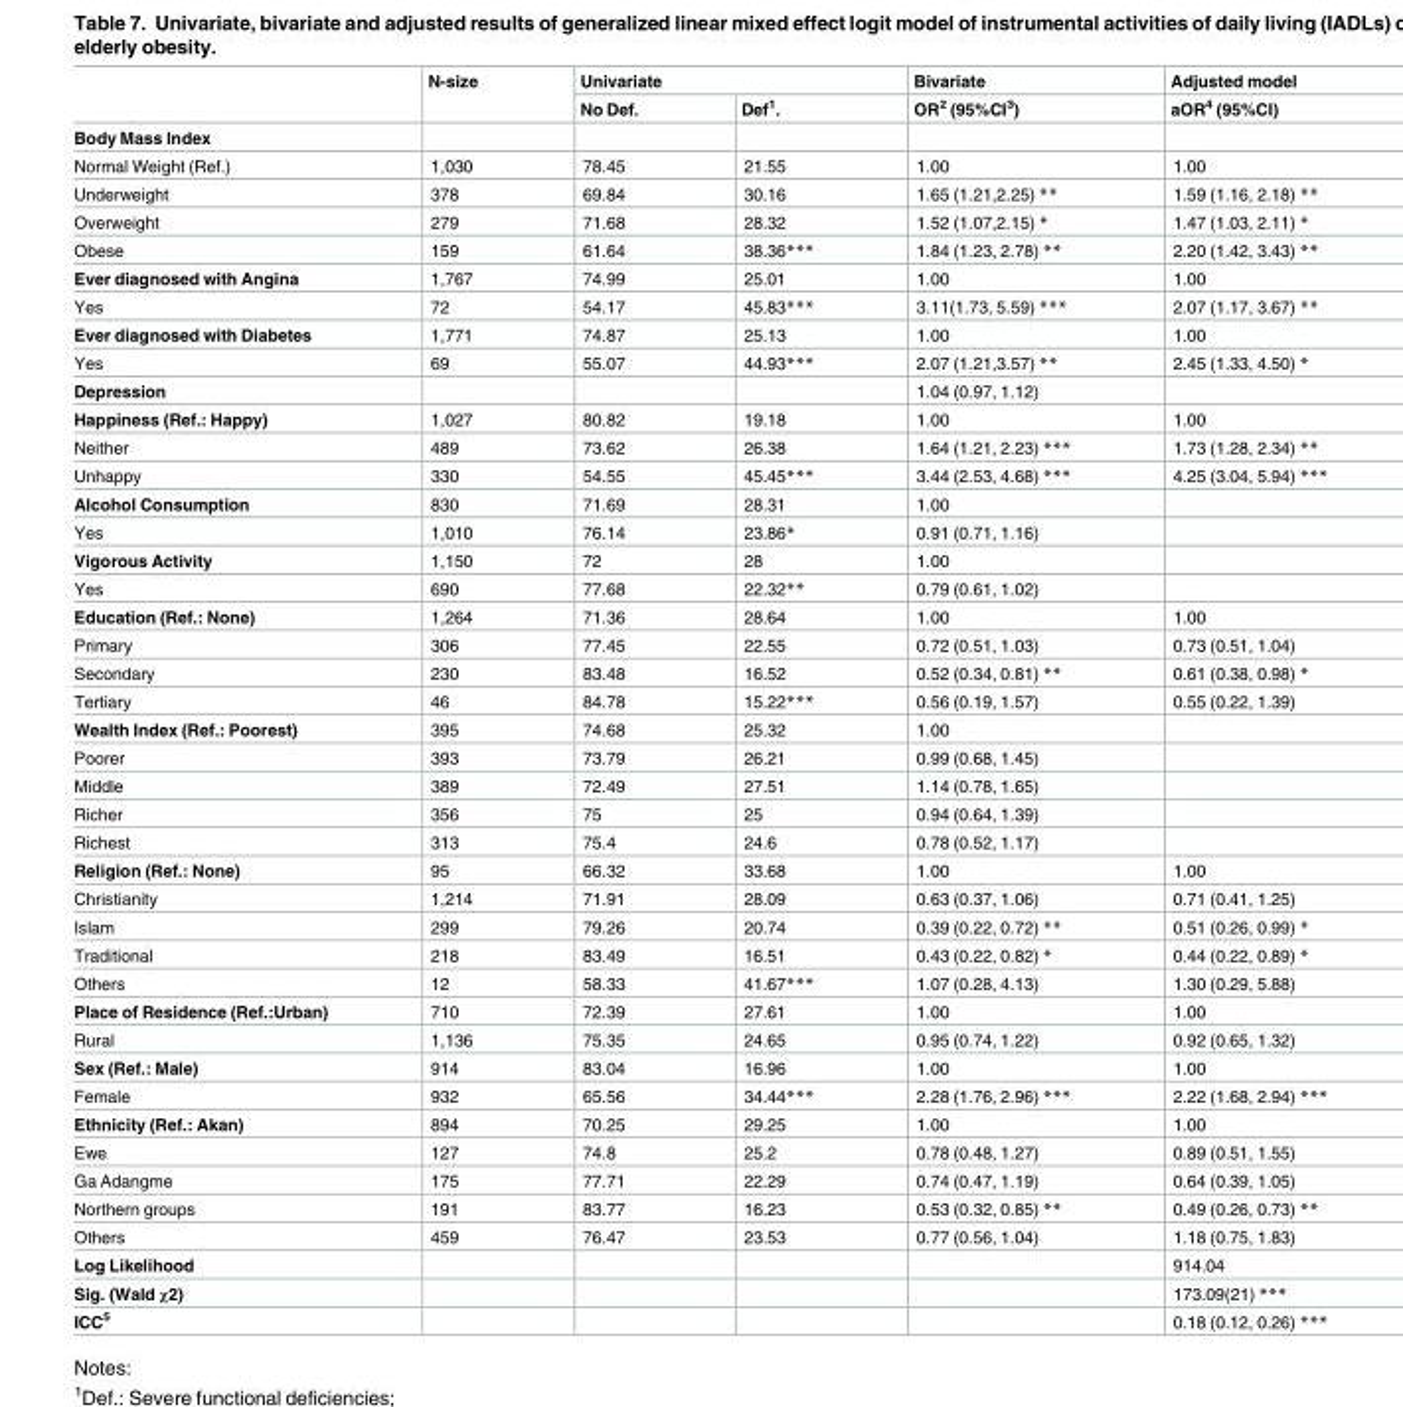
<table><thead><tr><td rowspan="2"></td><td rowspan="2">N-size</td><td colspan="2">Univariate</td><td rowspan="2">Bivariate OR<sup>2</sup> (95%CI<sup>3</sup>)</td><td rowspan="2">Adjusted model aOR<sup>4</sup> (95%CI)</td></tr><tr><td>No Def.</td><td>Def<sup>1</sup>.</td></tr></thead><tbody><tr><td colspan="6">Body Mass Index</td></tr><tr><td>Normal Weight (Ref.)</td><td>1,030</td><td>78.45</td><td>21.55</td><td>1.00</td><td>1.00</td></tr><tr><td>Underweight</td><td>378</td><td>69.84</td><td>30.16</td><td>1.65 (1.21,2.25) **</td><td>1.59 (1.16, 2.18) **</td></tr><tr><td>Overweight</td><td>279</td><td>71.68</td><td>28.32</td><td>1.52 (1.07,2.15) *</td><td>1.47 (1.03, 2.11) *</td></tr><tr><td>Obese</td><td>159</td><td>61.64</td><td>38.36***</td><td>1.84 (1.23, 2.78) **</td><td>2.20 (1.42, 3.43) **</td></tr><tr><td>Ever diagnosed with Angina</td><td>1,767</td><td>74.99</td><td>25.01</td><td>1.00</td><td>1.00</td></tr><tr><td>Yes</td><td>72</td><td>54.17</td><td>45.83***</td><td>3.11(1.73, 5.59) ***</td><td>2.07 (1.17, 3.67) **</td></tr><tr><td>Ever diagnosed with Diabetes</td><td>1,771</td><td>74.87</td><td>25.13</td><td>1.00</td><td>1.00</td></tr><tr><td>Yes</td><td>69</td><td>55.07</td><td>44.93***</td><td>2.07 (1.21,3.57) **</td><td>2.45 (1.33, 4.50) *</td></tr><tr><td>Depression</td><td></td><td></td><td></td><td>1.04 (0.97, 1.12)</td><td></td></tr><tr><td>Happiness (Ref.: Happy)</td><td>1,027</td><td>80.82</td><td>19.18</td><td>1.00</td><td>1.00</td></tr><tr><td>Neither</td><td>489</td><td>73.62</td><td>26.38</td><td>1.64 (1.21, 2.23) ***</td><td>1.73 (1.28, 2.34) **</td></tr><tr><td>Unhappy</td><td>330</td><td>54.55</td><td>45.45***</td><td>3.44 (2.53, 4.68) ***</td><td>4.25 (3.04, 5.94) ***</td></tr><tr><td>Alcohol Consumption</td><td>830</td><td>71.69</td><td>28.31</td><td>1.00</td><td></td></tr><tr><td>Yes</td><td>1,010</td><td>76.14</td><td>23.86*</td><td>0.91 (0.71, 1.16)</td><td></td></tr><tr><td>Vigorous Activity</td><td>1,150</td><td>72</td><td>28</td><td>1.00</td><td></td></tr><tr><td>Yes</td><td>690</td><td>77.68</td><td>22.32**</td><td>0.79 (0.61, 1.02)</td><td></td></tr><tr><td>Education (Ref.: None)</td><td>1,264</td><td>71.36</td><td>28.64</td><td>1.00</td><td>1.00</td></tr><tr><td>Primary</td><td>306</td><td>77.45</td><td>22.55</td><td>0.72 (0.51, 1.03)</td><td>0.73 (0.51, 1.04)</td></tr><tr><td>Secondary</td><td>230</td><td>83.48</td><td>16.52</td><td>0.52 (0.34, 0.81) **</td><td>0.61 (0.38, 0.98) *</td></tr><tr><td>Tertiary</td><td>46</td><td>84.78</td><td>15.22***</td><td>0.56 (0.19, 1.57)</td><td>0.55 (0.22, 1.39)</td></tr><tr><td>Wealth Index (Ref.: Poorest)</td><td>395</td><td>74.68</td><td>25.32</td><td>1.00</td><td></td></tr><tr><td>Poorer</td><td>393</td><td>73.79</td><td>26.21</td><td>0.99 (0.68, 1.45)</td><td></td></tr><tr><td>Middle</td><td>389</td><td>72.49</td><td>27.51</td><td>1.14 (0.78, 1.65)</td><td></td></tr><tr><td>Richer</td><td>356</td><td>75</td><td>25</td><td>0.94 (0.64, 1.39)</td><td></td></tr><tr><td>Richest</td><td>313</td><td>75.4</td><td>24.6</td><td>0.78 (0.52, 1.17)</td><td></td></tr><tr><td>Religion (Ref.: None)</td><td>95</td><td>66.32</td><td>33.68</td><td>1.00</td><td>1.00</td></tr><tr><td>Christianity</td><td>1,214</td><td>71.91</td><td>28.09</td><td>0.63 (0.37, 1.06)</td><td>0.71 (0.41, 1.25)</td></tr><tr><td>Islam</td><td>299</td><td>79.26</td><td>20.74</td><td>0.39 (0.22, 0.72) **</td><td>0.51 (0.26, 0.99) *</td></tr><tr><td>Traditional</td><td>218</td><td>83.49</td><td>16.51</td><td>0.43 (0.22, 0.82) *</td><td>0.44 (0.22, 0.89) *</td></tr><tr><td>Others</td><td>12</td><td>58.33</td><td>41.67***</td><td>1.07 (0.28, 4.13)</td><td>1.30 (0.29, 5.88)</td></tr><tr><td>Place of Residence (Ref.:Urban)</td><td>710</td><td>72.39</td><td>27.61</td><td>1.00</td><td>1.00</td></tr><tr><td>Rural</td><td>1,136</td><td>75.35</td><td>24.65</td><td>0.95 (0.74, 1.22)</td><td>0.92 (0.65, 1.32)</td></tr><tr><td>Sex (Ref.: Male)</td><td>914</td><td>83.04</td><td>16.96</td><td>1.00</td><td>1.00</td></tr><tr><td>Female</td><td>932</td><td>65.56</td><td>34.44***</td><td>2.28 (1.76, 2.96) ***</td><td>2.22 (1.68, 2.94) ***</td></tr><tr><td>Ethnicity (Ref.: Akan)</td><td>894</td><td>70.25</td><td>29.25</td><td>1.00</td><td>1.00</td></tr><tr><td>Ewe</td><td>127</td><td>74.8</td><td>25.2</td><td>0.78 (0.48, 1.27)</td><td>0.89 (0.51, 1.55)</td></tr><tr><td>Ga Adangme</td><td>175</td><td>77.71</td><td>22.29</td><td>0.74 (0.47, 1.19)</td><td>0.64 (0.39, 1.05)</td></tr><tr><td>Northern groups</td><td>191</td><td>83.77</td><td>16.23</td><td>0.53 (0.32, 0.85) **</td><td>0.49 (0.26, 0.73) **</td></tr><tr><td>Others</td><td>459</td><td>76.47</td><td>23.53</td><td>0.77 (0.56, 1.04)</td><td>1.18 (0.75, 1.83)</td></tr><tr><td>Log Likelihood</td><td></td><td></td><td></td><td></td><td>914.04</td></tr><tr><td>Sig. (Wald χ2)</td><td></td><td></td><td></td><td></td><td>173.09(21) ***</td></tr><tr><td>ICC<sup>5</sup></td><td></td><td></td><td></td><td></td><td>0.18 (0.12, 0.26) ***</td></tr></tbody></table>